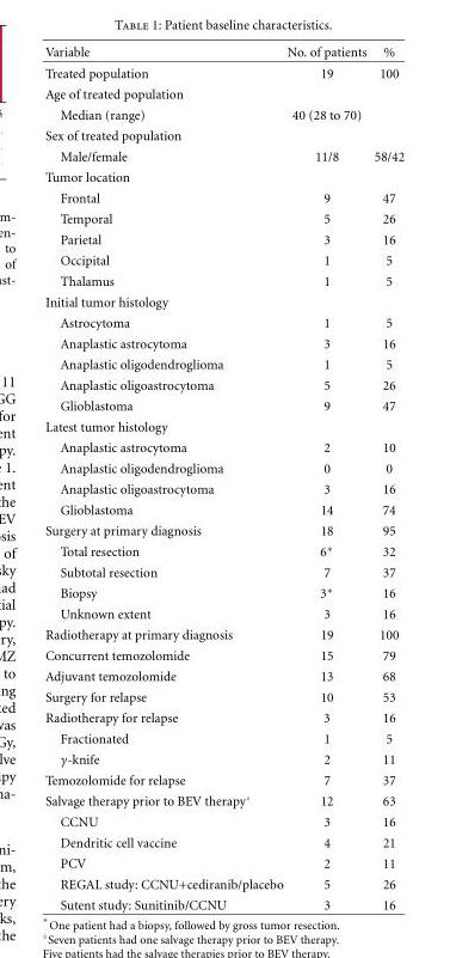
<table><thead><tr><td>Variable</td><td>No. of patients</td><td>%</td></tr></thead><tbody><tr><td>Treated population</td><td>19</td><td>100</td></tr><tr><td colspan="3">Age of treated population</td></tr><tr><td>Median (range)</td><td>40 (28 to 70)</td><td></td></tr><tr><td colspan="3">Sex of treated population</td></tr><tr><td>Male/female</td><td>11/8</td><td>58/42</td></tr><tr><td colspan="3">Tumor location</td></tr><tr><td>Frontal</td><td>9</td><td>47</td></tr><tr><td>Temporal</td><td>5</td><td>26</td></tr><tr><td>Parietal</td><td>3</td><td>16</td></tr><tr><td>Occipital</td><td>1</td><td>5</td></tr><tr><td>Thalamus</td><td>1</td><td>5</td></tr><tr><td colspan="3">Initial tumor histology</td></tr><tr><td>Astrocytoma</td><td>1</td><td>5</td></tr><tr><td>Anaplastic astrocytoma</td><td>3</td><td>16</td></tr><tr><td>Anaplastic oligodendroglioma</td><td>1</td><td>5</td></tr><tr><td>Anaplastic oligoastrocytoma</td><td>5</td><td>26</td></tr><tr><td>Glioblastoma</td><td>9</td><td>47</td></tr><tr><td colspan="3">Latest tumor histology</td></tr><tr><td>Anaplastic astrocytoma</td><td>2</td><td>10</td></tr><tr><td>Anaplastic oligodendroglioma</td><td>0</td><td>0</td></tr><tr><td>Anaplastic oligoastrocytoma</td><td>3</td><td>16</td></tr><tr><td>Glioblastoma</td><td>14</td><td>74</td></tr><tr><td>Surgery at primary diagnosis</td><td>18</td><td>95</td></tr><tr><td>Total resection</td><td>6∗</td><td>32</td></tr><tr><td>Subtotal resection</td><td>7</td><td>37</td></tr><tr><td>Biopsy</td><td>3∗</td><td>16</td></tr><tr><td>Unknown extent</td><td>3</td><td>16</td></tr><tr><td>Radiotherapy at primary diagnosis</td><td>19</td><td>100</td></tr><tr><td>Concurrent temozolomide</td><td>15</td><td>79</td></tr><tr><td>Adjuvant temozolomide</td><td>13</td><td>68</td></tr><tr><td>Surgery for relapse</td><td>10</td><td>53</td></tr><tr><td>Radiotherapy for relapse</td><td>3</td><td>16</td></tr><tr><td>Fractionated</td><td>1</td><td>5</td></tr><tr><td>γ-knife</td><td>2</td><td>11</td></tr><tr><td>Temozolomide for relapse</td><td>7</td><td>37</td></tr><tr><td>Salvage therapy prior to BEV therapy◦</td><td>12</td><td>63</td></tr><tr><td>CCNU</td><td>3</td><td>16</td></tr><tr><td>Dendritic cell vaccine</td><td>4</td><td>21</td></tr><tr><td>PCV</td><td>2</td><td>11</td></tr><tr><td>REGAL study: CCNU+cediranib/placebo</td><td>5</td><td>26</td></tr><tr><td>Sutent study: Sunitinib/CCNU</td><td>3</td><td>16</td></tr></tbody></table>